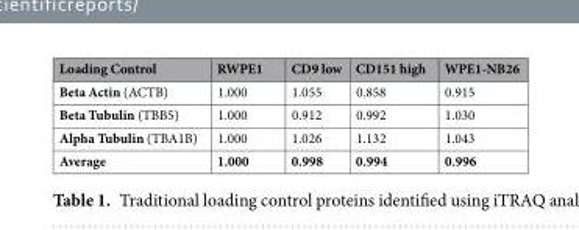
<table><thead><tr><td>Loading Control</td><td>RWPE1</td><td>CD9 low</td><td>CD151 high</td><td>WPE1-NB26</td></tr></thead><tbody><tr><td>Beta Actin (ACTB)</td><td>1.000</td><td>1.055</td><td>0.858</td><td>0.915</td></tr><tr><td>Beta Tubulin (TBB5)</td><td>1.000</td><td>0.912</td><td>0.992</td><td>1.030</td></tr><tr><td>Alpha Tubulin (TBA1B)</td><td>1.000</td><td>1.026</td><td>1.132</td><td>1.043</td></tr><tr><td>Average</td><td>1.000</td><td>0.998</td><td>0.994</td><td>0.996</td></tr></tbody></table>